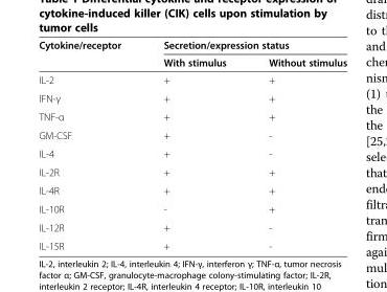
<table><thead><tr><td rowspan="2">Cytokine/receptor</td><td colspan="2">Secretion/expression status</td></tr><tr><td>With stimulus</td><td>Without stimulus</td></tr></thead><tbody><tr><td>IL-2</td><td>+</td><td>+</td></tr><tr><td>IFN-γ</td><td>+</td><td>+</td></tr><tr><td>TNF-α</td><td>+</td><td>+</td></tr><tr><td>GM-CSF</td><td>+</td><td>-</td></tr><tr><td>IL-4</td><td>+</td><td>-</td></tr><tr><td>IL-2R</td><td>+</td><td>+</td></tr><tr><td>IL-4R</td><td>+</td><td>+</td></tr><tr><td>IL-10R</td><td>-</td><td>+</td></tr><tr><td>IL-12R</td><td>+</td><td>-</td></tr><tr><td>IL-15R</td><td>+</td><td>-</td></tr></tbody></table>